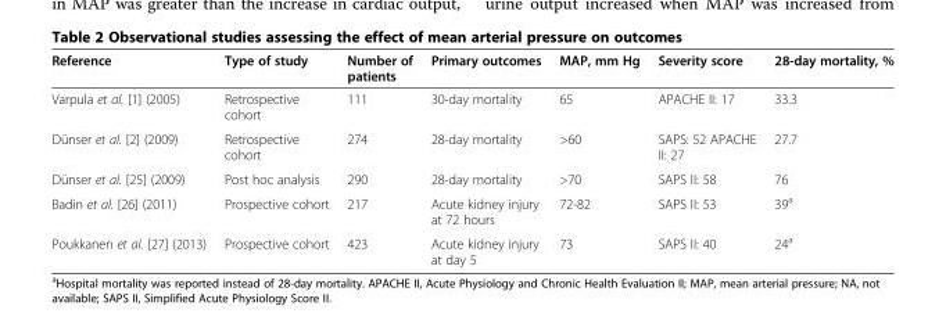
<table><thead><tr><td>Reference</td><td>Type of study</td><td>Number of patients</td><td>Primary outcomes</td><td>MAP, mm Hg</td><td>Severity score</td><td>28-day mortality, %</td></tr></thead><tbody><tr><td>Varpula et al. [1] (2005)</td><td>Retrospective cohort</td><td>111</td><td>30-day mortality</td><td>65</td><td>APACHE II: 17</td><td>33.3</td></tr><tr><td>Dünser et al. [2] (2009)</td><td>Retrospective cohort</td><td>274</td><td>28-day mortality</td><td>&gt;60</td><td>SAPS: 52 APACHE II: 27</td><td>27.7</td></tr><tr><td>Dünser et al. [25] (2009)</td><td>Post hoc analysis</td><td>290</td><td>28-day mortality</td><td>&gt;70</td><td>SAPS II: 58</td><td>76</td></tr><tr><td>Badin et al. [26] (2011)</td><td>Prospective cohort</td><td>217</td><td>Acute kidney injury at 72 hours</td><td>72-82</td><td>SAPS II: 53</td><td>39<sup>a</sup></td></tr><tr><td>Poukkanen et al. [27] (2013)</td><td>Prospective cohort</td><td>423</td><td>Acute kidney injury at day 5</td><td>73</td><td>SAPS II: 40</td><td>24<sup>a</sup></td></tr></tbody></table>